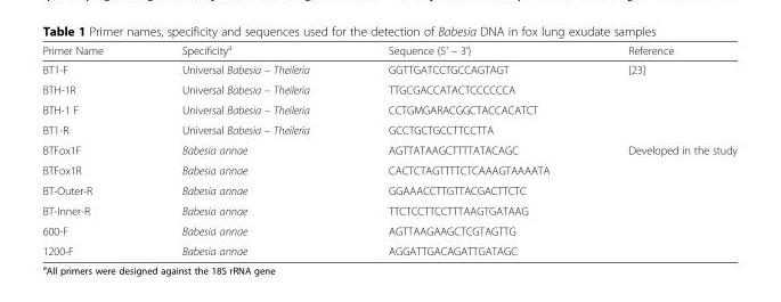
<table><thead><tr><td>Primer Name</td><td>Specificity<sup>a</sup></td><td>Sequence (5’ – 3’)</td><td>Reference</td></tr></thead><tbody><tr><td>BT1-F</td><td>Universal Babesia – Theileria</td><td>GGTTGATCCTGCCAGTAGT</td><td rowspan="4">[23]</td></tr><tr><td>BTH-1R</td><td>Universal Babesia – Theileria</td><td>TTGCGACCATACTCCCCCCA</td></tr><tr><td>BTH-1 F</td><td>Universal Babesia – Theileria</td><td>CCTGMGARACGGCTACCACATCT</td></tr><tr><td>BT1-R</td><td>Universal Babesia – Theileria</td><td>GCCTGCTGCCTTCCTTA</td></tr><tr><td>BTFox1F</td><td>Babesia annae</td><td>AGTTATAAGCTTTTATACAGC</td><td rowspan="6">Developed in the study</td></tr><tr><td>BTFox1R</td><td>Babesia annae</td><td>CACTCTAGTTTTCTCAAAGTAAAATA</td></tr><tr><td>BT-Outer-R</td><td>Babesia annae</td><td>GGAAACCTTGTTACGACTTCTC</td></tr><tr><td>BT-Inner-R</td><td>Babesia annae</td><td>TTCTCCTTCCTTTAAGTGATAAG</td></tr><tr><td>600-F</td><td>Babesia annae</td><td>AGTTAAGAAGCTCGTAGTTG</td></tr><tr><td>1200-F</td><td>Babesia annae</td><td>AGGATTGACAGATTGATAGC</td></tr></tbody></table>